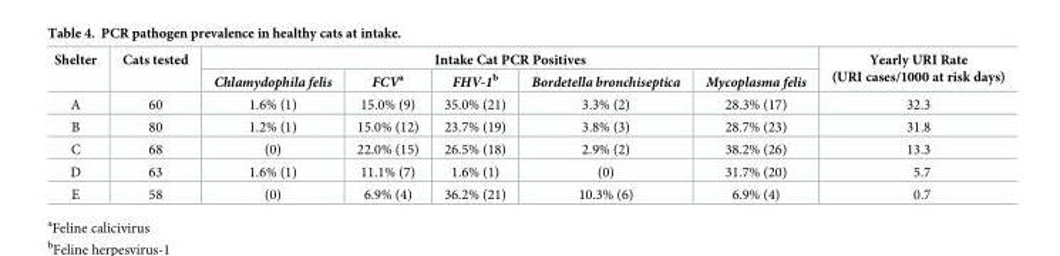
<table><thead><tr><td rowspan="2">Shelter</td><td rowspan="2">Cats tested</td><td colspan="5">Intake Cat PCR Positives</td><td rowspan="2">Yearly URI Rate (URI cases/1000 at risk days)</td></tr><tr><td>Chlamydophila felis</td><td>FCV<sup>a</sup></td><td>FHV-1<sup>b</sup></td><td>Bordetella bronchiseptica</td><td>Mycoplasma felis</td></tr></thead><tbody><tr><td>A</td><td>60</td><td>1.6% (1)</td><td>15.0% (9)</td><td>35.0% (21)</td><td>3.3% (2)</td><td>28.3% (17)</td><td>32.3</td></tr><tr><td>B</td><td>80</td><td>1.2% (1)</td><td>15.0% (12)</td><td>23.7% (19)</td><td>3.8% (3)</td><td>28.7% (23)</td><td>31.8</td></tr><tr><td>C</td><td>68</td><td>(0)</td><td>22.0% (15)</td><td>26.5% (18)</td><td>2.9% (2)</td><td>38.2% (26)</td><td>13.3</td></tr><tr><td>D</td><td>63</td><td>1.6% (1)</td><td>11.1% (7)</td><td>1.6% (1)</td><td>(0)</td><td>31.7% (20)</td><td>5.7</td></tr><tr><td>E</td><td>58</td><td>(0)</td><td>6.9% (4)</td><td>36.2% (21)</td><td>10.3% (6)</td><td>6.9% (4)</td><td>0.7</td></tr></tbody></table>